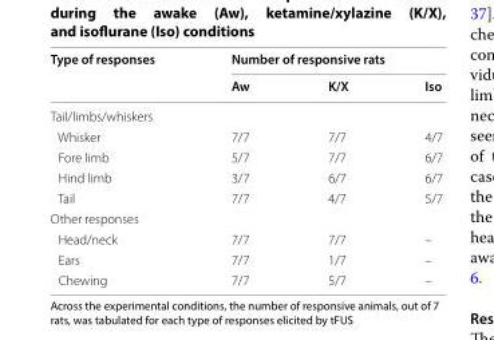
<table><thead><tr><td rowspan="2">Type of responses</td><td colspan="3">Number of responsive rats</td></tr><tr><td>Aw</td><td>K/X</td><td>Iso</td></tr></thead><tbody><tr><td colspan="4">Tail/limbs/whiskers</td></tr><tr><td>Whisker</td><td>7/7</td><td>7/7</td><td>4/7</td></tr><tr><td>Fore limb</td><td>5/7</td><td>7/7</td><td>6/7</td></tr><tr><td>Hind limb</td><td>3/7</td><td>6/7</td><td>6/7</td></tr><tr><td>Tail</td><td>7/7</td><td>4/7</td><td>5/7</td></tr><tr><td colspan="4">Other responses</td></tr><tr><td>Head/neck</td><td>7/7</td><td>7/7</td><td>–</td></tr><tr><td>Ears</td><td>7/7</td><td>1/7</td><td>–</td></tr><tr><td>Chewing</td><td>7/7</td><td>5/7</td><td>–</td></tr></tbody></table>